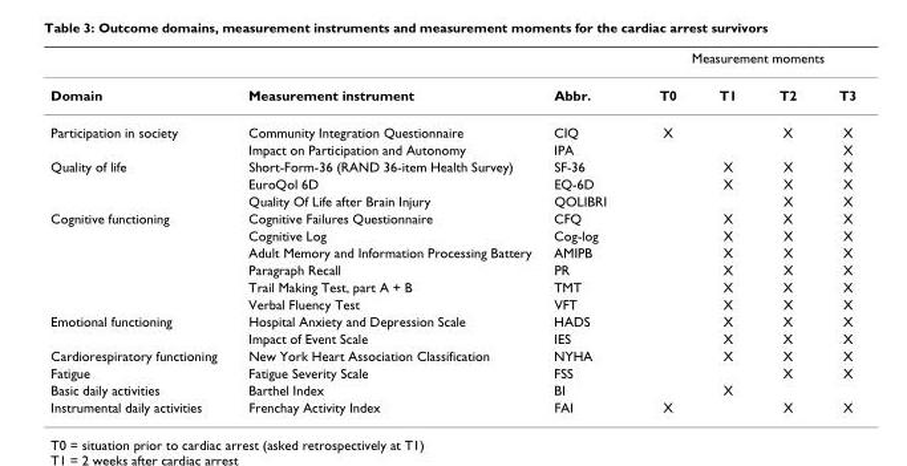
<table><thead><tr><td rowspan="2">Domain</td><td rowspan="2">Measurement instrument</td><td rowspan="2">Abbr.</td><td colspan="4">Measurement moments</td></tr><tr><td>T0</td><td>T1</td><td>T2</td><td>T3</td></tr></thead><tbody><tr><td rowspan="2">Participation in society</td><td>Community Integration Questionnaire</td><td>CIQ</td><td>X</td><td></td><td>X</td><td>X</td></tr><tr><td>Impact on Participation and Autonomy</td><td>IPA</td><td></td><td></td><td></td><td>X</td></tr><tr><td rowspan="3">Quality of life</td><td>Short-Form-36 (RAND 36-item Health Survey)</td><td>SF-36</td><td></td><td>X</td><td>X</td><td>X</td></tr><tr><td>EuroQol 6D</td><td>EQ-6D</td><td></td><td>X</td><td>X</td><td>X</td></tr><tr><td>Quality Of Life after Brain Injury</td><td>QOLIBRI</td><td></td><td></td><td>X</td><td>X</td></tr><tr><td rowspan="6">Cognitive functioning</td><td>Cognitive Failures Questionnaire</td><td>CFQ</td><td></td><td>X</td><td>X</td><td>X</td></tr><tr><td>Cognitive Log</td><td>Cog-log</td><td></td><td>X</td><td>X</td><td>X</td></tr><tr><td>Adult Memory and Information Processing Battery</td><td>AMIPB</td><td></td><td>X</td><td>X</td><td>X</td></tr><tr><td>Paragraph Recall</td><td>PR</td><td></td><td>X</td><td>X</td><td>X</td></tr><tr><td>Trail Making Test, part A + B</td><td>TMT</td><td></td><td>X</td><td>X</td><td>X</td></tr><tr><td>Verbal Fluency Test</td><td>VFT</td><td></td><td>X</td><td>X</td><td>X</td></tr><tr><td rowspan="2">Emotional functioning</td><td>Hospital Anxiety and Depression Scale</td><td>HADS</td><td></td><td>X</td><td>X</td><td>X</td></tr><tr><td>Impact of Event Scale</td><td>IES</td><td></td><td>X</td><td>X</td><td>X</td></tr><tr><td>Cardiorespiratory functioning</td><td>New York Heart Association Classification</td><td>NYHA</td><td></td><td>X</td><td>X</td><td>X</td></tr><tr><td>Fatigue</td><td>Fatigue Severity Scale</td><td>FSS</td><td></td><td></td><td>X</td><td>X</td></tr><tr><td>Basic daily activities</td><td>Barthel Index</td><td>BI</td><td></td><td>X</td><td></td><td></td></tr><tr><td>Instrumental daily activities</td><td>Frenchay Activity Index</td><td>FAI</td><td>X</td><td></td><td>X</td><td>X</td></tr></tbody></table>